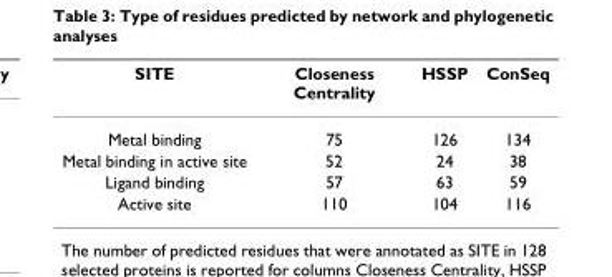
<table><thead><tr><td>SITE</td><td>Closeness Centrality</td><td>HSSP</td><td>ConSeq</td></tr></thead><tbody><tr><td>Metal binding</td><td>75</td><td>126</td><td>134</td></tr><tr><td>Metal binding in active site</td><td>52</td><td>24</td><td>38</td></tr><tr><td>Ligand binding</td><td>57</td><td>63</td><td>59</td></tr><tr><td>Active site</td><td>110</td><td>104</td><td>116</td></tr></tbody></table>